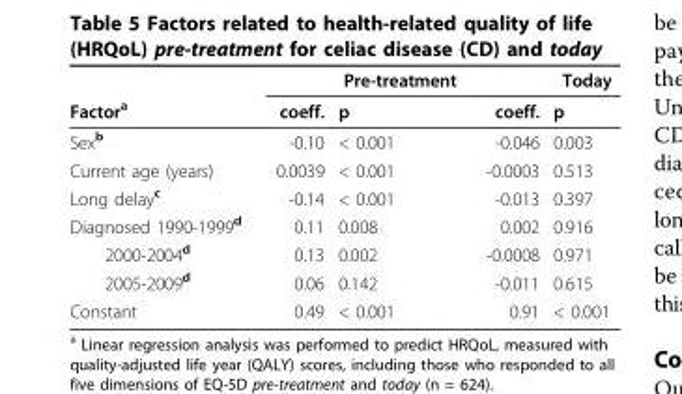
<table><thead><tr><td></td><td></td><td>Pre-treatment</td><td></td><td>Today</td></tr></thead><tbody><tr><td>Factor<sup>a</sup></td><td>coeff.</td><td>p</td><td>coeff.</td><td>p</td></tr><tr><td>Sex<sup>b</sup></td><td>-0.10</td><td>&lt; 0.001</td><td>-0.046</td><td>0.003</td></tr><tr><td>Current age (years)</td><td>0.0039</td><td>&lt; 0.001</td><td>-0.0003</td><td>0.513</td></tr><tr><td>Long delay<sup>c</sup></td><td>-0.14</td><td>&lt; 0.001</td><td>-0.013</td><td>0.397</td></tr><tr><td>Diagnosed 1990-1999<sup>d</sup></td><td>0.11</td><td>0.008</td><td>0.002</td><td>0.916</td></tr><tr><td>2000-2004<sup>d</sup></td><td>0.13</td><td>0.002</td><td>-0.0008</td><td>0.971</td></tr><tr><td>2005-2009<sup>d</sup></td><td>0.06</td><td>0.142</td><td>-0.011</td><td>0.615</td></tr><tr><td>Constant</td><td>0.49</td><td>&lt; 0.001</td><td>0.91</td><td>&lt; 0.001</td></tr></tbody></table>